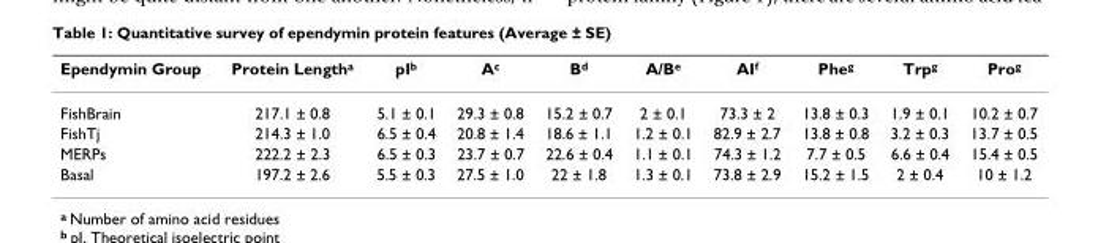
<table><thead><tr><td>Ependymin Group</td><td>Protein Length<sup>a</sup></td><td>pI<sup>b</sup></td><td>A<sup>c</sup></td><td>B<sup>d</sup></td><td>A/B<sup>e</sup></td><td>AI<sup>f</sup></td><td>Phe<sup>g</sup></td><td>Trp<sup>g</sup></td><td>Pro<sup>g</sup></td></tr></thead><tbody><tr><td>FishBrain</td><td>217.1 ± 0.8</td><td>5.1 ± 0.1</td><td>29.3 ± 0.8</td><td>15.2 ± 0.7</td><td>2 ± 0.1</td><td>73.3 ± 2</td><td>13.8 ± 0.3</td><td>1.9 ± 0.1</td><td>10.2 ± 0.7</td></tr><tr><td>FishTj</td><td>214.3 ± 1.0</td><td>6.5 ± 0.4</td><td>20.8 ± 1.4</td><td>18.6 ± 1.1</td><td>1.2 ± 0.1</td><td>82.9 ± 2.7</td><td>13.8 ± 0.8</td><td>3.2 ± 0.3</td><td>13.7 ± 0.5</td></tr><tr><td>MERPs</td><td>222.2 ± 2.3</td><td>6.5 ± 0.3</td><td>23.7 ± 0.7</td><td>22.6 ± 0.4</td><td>1.1 ± 0.1</td><td>74.3 ± 1.2</td><td>7.7 ± 0.5</td><td>6.6 ± 0.4</td><td>15.4 ± 0.5</td></tr><tr><td>Basal</td><td>197.2 ± 2.6</td><td>5.5 ± 0.3</td><td>27.5 ± 1.0</td><td>22 ± 1.8</td><td>1.3 ± 0.1</td><td>73.8 ± 2.9</td><td>15.2 ± 1.5</td><td>2 ± 0.4</td><td>10 ± 1.2</td></tr></tbody></table>